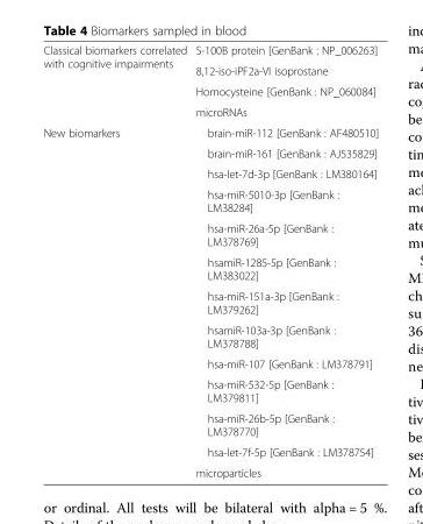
<table><tbody><tr><td rowspan="4">Classical biomarkers correlated with cognitive impairments</td><td>S-100B protein [GenBank : NP_006263]</td></tr><tr><td>8,12-iso-iPF2a-VI isoprostane</td></tr><tr><td>Homocysteine [GenBank : NP_060084]</td></tr><tr><td>microRNAs</td></tr><tr><td rowspan="13">New biomarkers</td><td>brain-miR-112 [GenBank : AF480510]</td></tr><tr><td>brain-miR-161 [GenBank : AJ535829]</td></tr><tr><td>hsa-let-7d-3p [GenBank : LM380164]</td></tr><tr><td>hsa-miR-5010-3p [GenBank : LM38284]</td></tr><tr><td>hsa-miR-26a-5p [GenBank : LM378769]</td></tr><tr><td>hsamiR-1285-5p [GenBank : LM383022]</td></tr><tr><td>hsa-miR-151a-3p [GenBank : LM379262]</td></tr><tr><td>hsamiR-103a-3p [GenBank : LM378788]</td></tr><tr><td>hsa-miR-107 [GenBank : LM378791]</td></tr><tr><td>hsa-miR-532-5p [GenBank : LM379811]</td></tr><tr><td>hsa-miR-26b-5p [GenBank : LM378770]</td></tr><tr><td>hsa-let-7f-5p [GenBank : LM378754]</td></tr><tr><td>microparticles</td></tr></tbody></table>